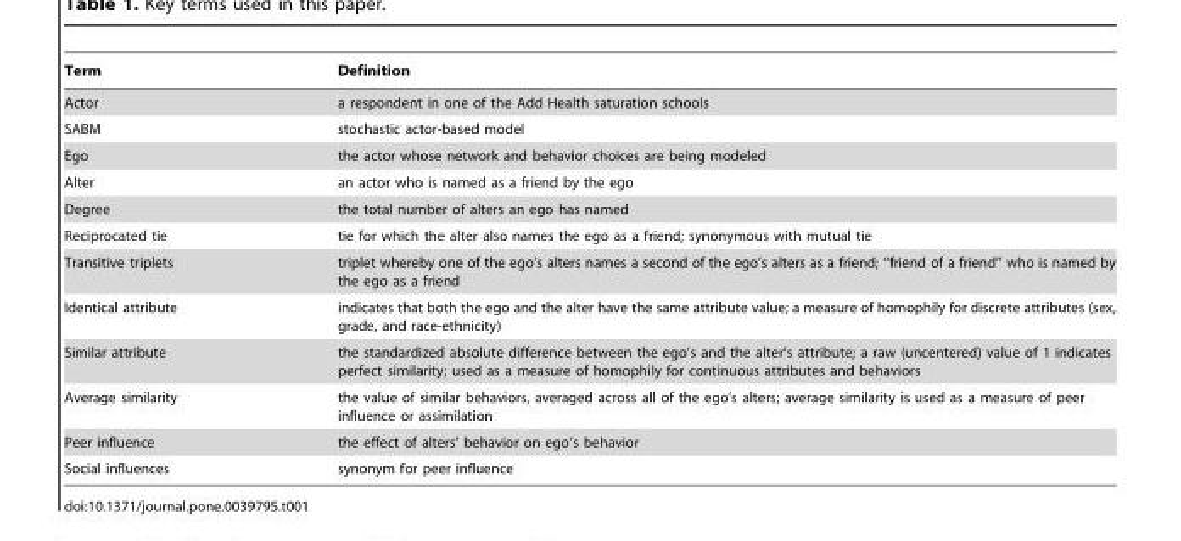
<table><thead><tr><td>Term</td><td>Definition</td></tr></thead><tbody><tr><td>Actor</td><td>a respondent in one of the Add Health saturation schools</td></tr><tr><td>SABM</td><td>stochastic actor-based model</td></tr><tr><td>Ego</td><td>the actor whose network and behavior choices are being modeled</td></tr><tr><td>Alter</td><td>an actor who is named as a friend by the ego</td></tr><tr><td>Degree</td><td>the total number of alters an ego has named</td></tr><tr><td>Reciprocated tie</td><td>tie for which the alter also names the ego as a friend; synonymous with mutual tie</td></tr><tr><td>Transitive triplets</td><td>triplet whereby one of the ego’s alters names a second of the ego’s alters as a friend; ‘‘friend of a friend’’ who is named by the ego as a friend</td></tr><tr><td>Identical attribute</td><td>indicates that both the ego and the alter have the same attribute value; a measure of homophily for discrete attributes (sex, grade, and race-ethnicity)</td></tr><tr><td>Similar attribute</td><td>the standardized absolute difference between the ego’s and the alter’s attribute; a raw (uncentered) value of 1 indicates perfect similarity; used as a measure of homophily for continuous attributes and behaviors</td></tr><tr><td>Average similarity</td><td>the value of similar behaviors, averaged across all of the ego’s alters; average similarity is used as a measure of peer influence or assimilation</td></tr><tr><td>Peer influence</td><td>the effect of alters’ behavior on ego’s behavior</td></tr><tr><td>Social influences</td><td>synonym for peer influence</td></tr></tbody></table>